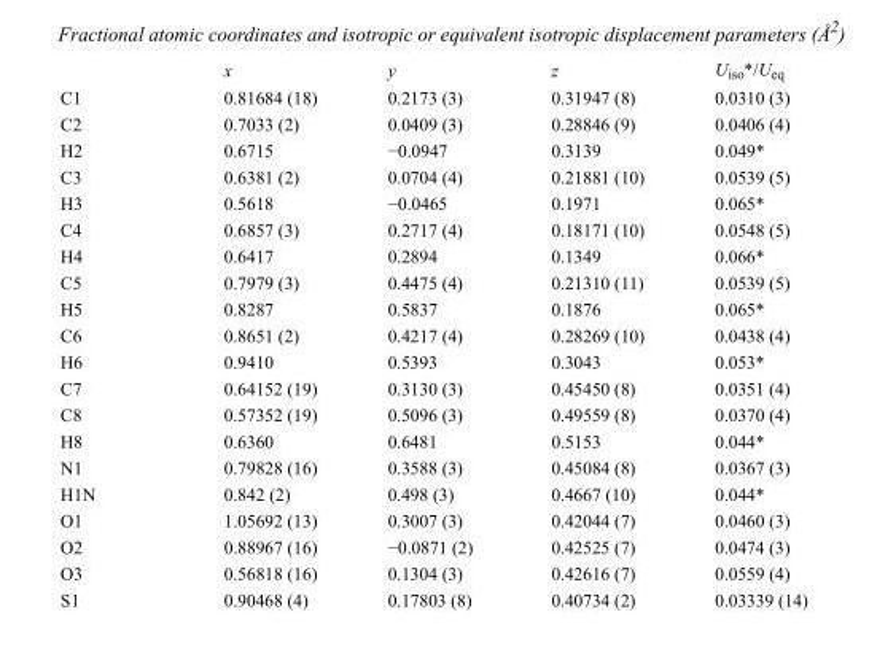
<table><thead><tr><td></td><td>x</td><td>y</td><td>z</td><td>U<sub>iso</sub>*/U<sub>eq</sub></td></tr></thead><tbody><tr><td>C1</td><td>0.81684 (18)</td><td>0.2173 (3)</td><td>0.31947 (8)</td><td>0.0310 (3)</td></tr><tr><td>C2</td><td>0.7033 (2)</td><td>0.0409 (3)</td><td>0.28846 (9)</td><td>0.0406 (4)</td></tr><tr><td>H2</td><td>0.6715</td><td>−0.0947</td><td>0.3139</td><td>0.049*</td></tr><tr><td>C3</td><td>0.6381 (2)</td><td>0.0704 (4)</td><td>0.21881 (10)</td><td>0.0539 (5)</td></tr><tr><td>H3</td><td>0.5618</td><td>−0.0465</td><td>0.1971</td><td>0.065*</td></tr><tr><td>C4</td><td>0.6857 (3)</td><td>0.2717 (4)</td><td>0.18171 (10)</td><td>0.0548 (5)</td></tr><tr><td>H4</td><td>0.6417</td><td>0.2894</td><td>0.1349</td><td>0.066*</td></tr><tr><td>C5</td><td>0.7979 (3)</td><td>0.4475 (4)</td><td>0.21310 (11)</td><td>0.0539 (5)</td></tr><tr><td>H5</td><td>0.8287</td><td>0.5837</td><td>0.1876</td><td>0.065*</td></tr><tr><td>C6</td><td>0.8651 (2)</td><td>0.4217 (4)</td><td>0.28269 (10)</td><td>0.0438 (4)</td></tr><tr><td>H6</td><td>0.9410</td><td>0.5393</td><td>0.3043</td><td>0.053*</td></tr><tr><td>C7</td><td>0.64152 (19)</td><td>0.3130 (3)</td><td>0.45450 (8)</td><td>0.0351 (4)</td></tr><tr><td>C8</td><td>0.57352 (19)</td><td>0.5096 (3)</td><td>0.49559 (8)</td><td>0.0370 (4)</td></tr><tr><td>H8</td><td>0.6360</td><td>0.6481</td><td>0.5153</td><td>0.044*</td></tr><tr><td>N1</td><td>0.79828 (16)</td><td>0.3588 (3)</td><td>0.45084 (8)</td><td>0.0367 (3)</td></tr><tr><td>H1N</td><td>0.842 (2)</td><td>0.498 (3)</td><td>0.4667 (10)</td><td>0.044*</td></tr><tr><td>O1</td><td>1.05692 (13)</td><td>0.3007 (3)</td><td>0.42044 (7)</td><td>0.0460 (3)</td></tr><tr><td>O2</td><td>0.88967 (16)</td><td>−0.0871 (2)</td><td>0.42525 (7)</td><td>0.0474 (3)</td></tr><tr><td>O3</td><td>0.56818 (16)</td><td>0.1304 (3)</td><td>0.42616 (7)</td><td>0.0559 (4)</td></tr><tr><td>S1</td><td>0.90468 (4)</td><td>0.17803 (8)</td><td>0.40734 (2)</td><td>0.03339 (14)</td></tr></tbody></table>